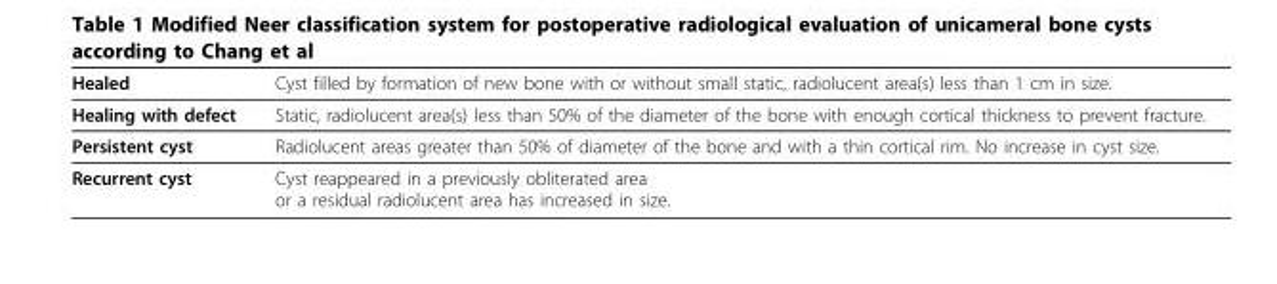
<table><thead><tr><td>Healed</td><td>Cyst filled by formation of new bone with or without small static, radiolucent area(s) less than 1 cm in size.</td></tr></thead><tbody><tr><td>Healing with defect</td><td>Static, radiolucent area(s) less than 50% of the diameter of the bone with enough cortical thickness to prevent fracture.</td></tr><tr><td>Persistent cyst</td><td>Radiolucent areas greater than 50% of diameter of the bone and with a thin cortical rim. No increase in cyst size.</td></tr><tr><td>Recurrent cyst</td><td>Cyst reappeared in a previously obliterated area or a residual radiolucent area has increased in size.</td></tr></tbody></table>